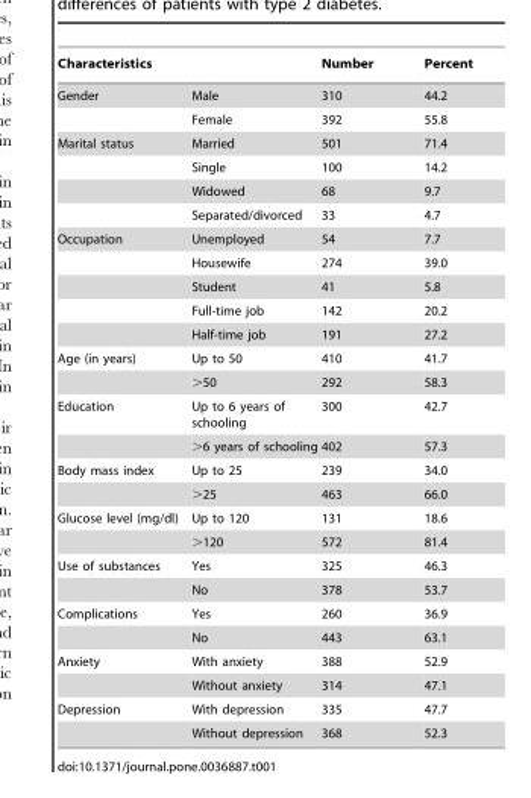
<table><thead><tr><td colspan="2">Characteristics</td><td rowspan="2">Number 310</td><td rowspan="2">Percent 44.2</td></tr><tr><td>Gender</td><td>Male</td></tr></thead><tbody><tr><td></td><td>Female</td><td>392</td><td>55.8</td></tr><tr><td rowspan="4">Marital status</td><td>Married</td><td>501</td><td>71.4</td></tr><tr><td>Single</td><td>100</td><td>14.2</td></tr><tr><td>Widowed</td><td>68</td><td>9.7</td></tr><tr><td>Separated/divorced</td><td>33</td><td>4.7</td></tr><tr><td rowspan="5">Occupation</td><td>Unemployed</td><td>54</td><td>7.7</td></tr><tr><td>Housewife</td><td>274</td><td>39.0</td></tr><tr><td>Student</td><td>41</td><td>5.8</td></tr><tr><td>Full-time job</td><td>142</td><td>20.2</td></tr><tr><td>Half-time job</td><td>191</td><td>27.2</td></tr><tr><td rowspan="2">Age (in years)</td><td>Up to 50</td><td>410</td><td>41.7</td></tr><tr><td>&gt;50</td><td>292</td><td>58.3</td></tr><tr><td rowspan="2">Education</td><td>Up to 6 years of schooling</td><td>300</td><td>42.7</td></tr><tr><td>&gt;6 years of schooling</td><td>402</td><td>57.3</td></tr><tr><td rowspan="2">Body mass index</td><td>Up to 25</td><td>239</td><td>34.0</td></tr><tr><td>&gt;25</td><td>463</td><td>66.0</td></tr><tr><td rowspan="2">Glucose level (mg/dl)</td><td>Up to 120</td><td>131</td><td>18.6</td></tr><tr><td>&gt;120</td><td>572</td><td>81.4</td></tr><tr><td rowspan="2">Use of substances</td><td>Yes</td><td>325</td><td>46.3</td></tr><tr><td>No</td><td>378</td><td>53.7</td></tr><tr><td rowspan="2">Complications</td><td>Yes</td><td>260</td><td>36.9</td></tr><tr><td>No</td><td>443</td><td>63.1</td></tr><tr><td rowspan="2">Anxiety</td><td>With anxiety</td><td>388</td><td>52.9</td></tr><tr><td>Without anxiety</td><td>314</td><td>47.1</td></tr><tr><td rowspan="2">Depression</td><td>With depression</td><td>335</td><td>47.7</td></tr><tr><td>Without depression</td><td>368</td><td>52.3</td></tr></tbody></table>